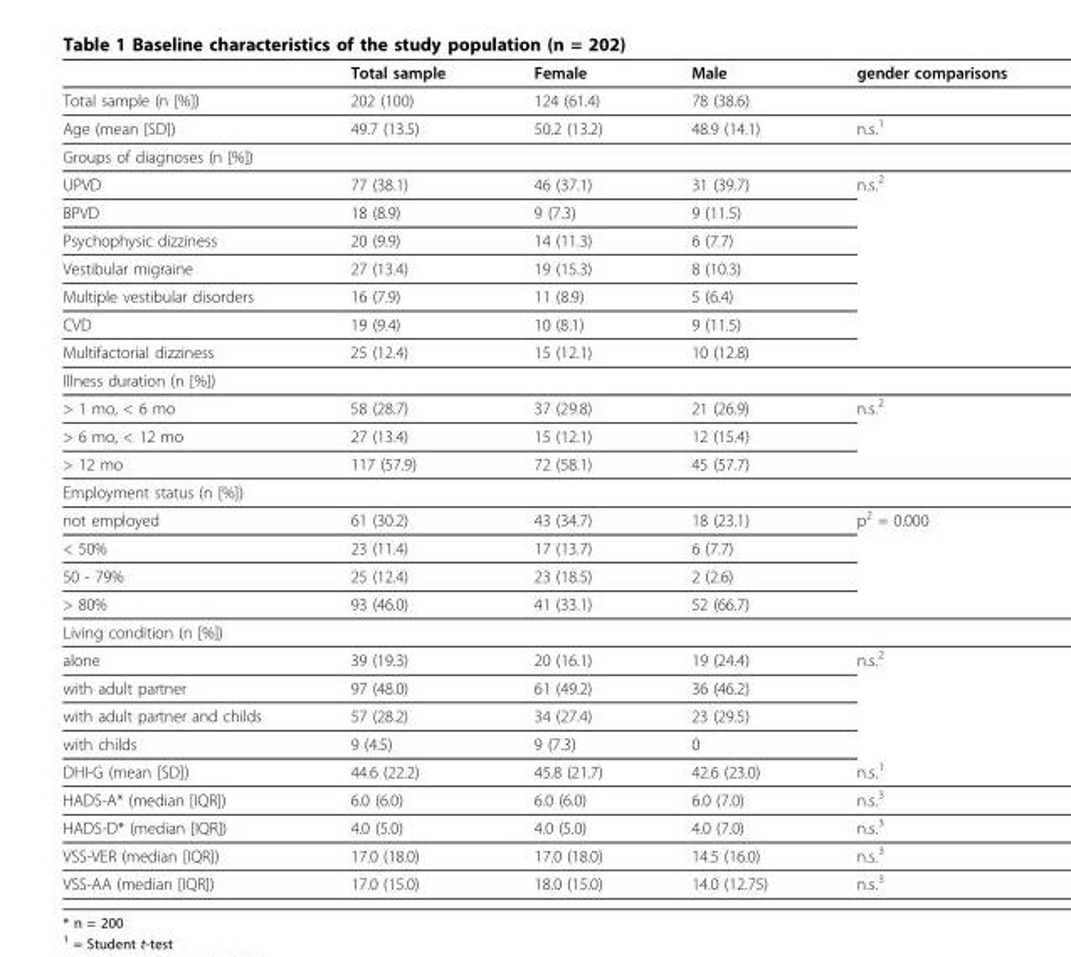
<table><thead><tr><td></td><td>Total sample</td><td>Female</td><td>Male</td><td>gender comparisons</td></tr></thead><tbody><tr><td>Total sample (n [%])</td><td>202 (100)</td><td>124 (61.4)</td><td>78 (38.6)</td><td></td></tr><tr><td>Age (mean [SD])</td><td>49.7 (13.5)</td><td>50.2 (13.2)</td><td>48.9 (14.1)</td><td>n.s.<sup>1</sup></td></tr><tr><td colspan="5">Groups of diagnoses (n [%])</td></tr><tr><td>UPVD</td><td>77 (38.1)</td><td>46 (37.1)</td><td>31 (39.7)</td><td>n.s.<sup>2</sup></td></tr><tr><td>BPVD</td><td>18 (8.9)</td><td>9 (7.3)</td><td>9 (11.5)</td><td></td></tr><tr><td>Psychophysic dizziness</td><td>20 (9.9)</td><td>14 (11.3)</td><td>6 (7.7)</td><td></td></tr><tr><td>Vestibular migraine</td><td>27 (13.4)</td><td>19 (15.3)</td><td>8 (10.3)</td><td></td></tr><tr><td>Multiple vestibular disorders</td><td>16 (7.9)</td><td>11 (8.9)</td><td>5 (6.4)</td><td></td></tr><tr><td>CVD</td><td>19 (9.4)</td><td>10 (8.1)</td><td>9 (11.5)</td><td></td></tr><tr><td>Multifactorial dizziness</td><td>25 (12.4)</td><td>15 (12.1)</td><td>10 (12.8)</td><td></td></tr><tr><td colspan="5">Illness duration (n [%])</td></tr><tr><td>&gt; 1 mo, &lt; 6 mo</td><td>58 (28.7)</td><td>37 (29.8)</td><td>21 (26.9)</td><td>n.s.<sup>2</sup></td></tr><tr><td>&gt; 6 mo, &lt; 12 mo</td><td>27 (13.4)</td><td>15 (12.1)</td><td>12 (15.4)</td><td></td></tr><tr><td>&gt; 12 mo</td><td>117 (57.9)</td><td>72 (58.1)</td><td>45 (57.7)</td><td></td></tr><tr><td colspan="5">Employment status (n [%])</td></tr><tr><td>not employed</td><td>61 (30.2)</td><td>43 (34.7)</td><td>18 (23.1)</td><td>p<sup>2</sup> = 0.000</td></tr><tr><td>&lt; 50%</td><td>23 (11.4)</td><td>17 (13.7)</td><td>6 (7.7)</td><td></td></tr><tr><td>50 - 79%</td><td>25 (12.4)</td><td>23 (18.5)</td><td>2 (2.6)</td><td></td></tr><tr><td>&gt; 80%</td><td>93 (46.0)</td><td>41 (33.1)</td><td>52 (66.7)</td><td></td></tr><tr><td colspan="5">Living condition (n [%])</td></tr><tr><td>alone</td><td>39 (19.3)</td><td>20 (16.1)</td><td>19 (24.4)</td><td>n.s.<sup>2</sup></td></tr><tr><td>with adult partner</td><td>97 (48.0)</td><td>61 (49.2)</td><td>36 (46.2)</td><td></td></tr><tr><td>with adult partner and childs</td><td>57 (28.2)</td><td>34 (27.4)</td><td>23 (29.5)</td><td></td></tr><tr><td>with childs</td><td>9 (4.5)</td><td>9 (7.3)</td><td>0</td><td></td></tr><tr><td>DHI-G (mean [SD])</td><td>44.6 (22.2)</td><td>45.8 (21.7)</td><td>42.6 (23.0)</td><td>n.s.<sup>1</sup></td></tr><tr><td>HADS-A* (median [IQR])</td><td>6.0 (6.0)</td><td>6.0 (6.0)</td><td>6.0 (7.0)</td><td>n.s.<sup>3</sup></td></tr><tr><td>HADS-D* (median [IQR])</td><td>4.0 (5.0)</td><td>4.0 (5.0)</td><td>4.0 (7.0)</td><td>n.s.<sup>3</sup></td></tr><tr><td>VSS-VER (median [IQR])</td><td>17.0 (18.0)</td><td>17.0 (18.0)</td><td>14.5 (16.0)</td><td>n.s.<sup>3</sup></td></tr><tr><td>VSS-AA (median [IQR])</td><td>17.0 (15.0)</td><td>18.0 (15.0)</td><td>14.0 (12.75)</td><td>n.s.<sup>3</sup></td></tr></tbody></table>